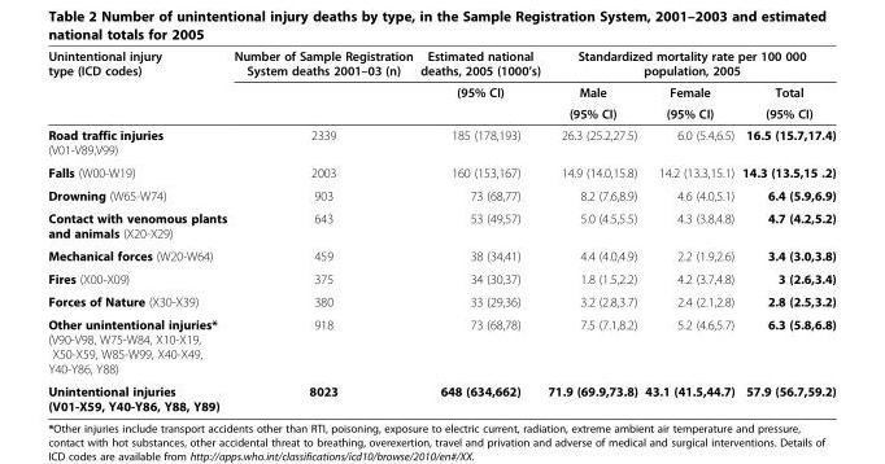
<table><thead><tr><td rowspan="3">Unintentional injury type (ICD codes)</td><td rowspan="3">Number of Sample Registration System deaths 2001–03 (n)</td><td rowspan="3">Estimated national deaths, 2005 (1000’s) (95% CI)</td><td colspan="3">Standardized mortality rate per 100 000 population, 2005</td></tr><tr><td rowspan="2">Male (95% CI)</td><td rowspan="2">Female (95% CI)</td><td rowspan="2">Total (95% CI)</td></tr><tr></tr></thead><tbody><tr><td>Road traffic injuries (V01-V89,V99)</td><td>2339</td><td>185 (178,193)</td><td>26.3 (25.2,27.5)</td><td>6.0 (5.4,6.5)</td><td>16.5 (15.7,17.4)</td></tr><tr><td>Falls (W00-W19)</td><td>2003</td><td>160 (153,167)</td><td>14.9 (14.0,15.8)</td><td>14.2 (13.3,15.1)</td><td>14.3 (13.5,15 .2)</td></tr><tr><td>Drowning (W65-W74)</td><td>903</td><td>73 (68,77)</td><td>8.2 (7.6,8.9)</td><td>4.6 (4.0,5.1)</td><td>6.4 (5.9,6.9)</td></tr><tr><td>Contact with venomous plants and animals (X20-X29)</td><td>643</td><td>53 (49,57)</td><td>5.0 (4.5,5.5)</td><td>4.3 (3.8,4.8)</td><td>4.7 (4.2,5.2)</td></tr><tr><td>Mechanical forces (W20-W64)</td><td>459</td><td>38 (34,41)</td><td>4.4 (4.0,4.9)</td><td>2.2 (1.9,2.6)</td><td>3.4 (3.0,3.8)</td></tr><tr><td>Fires (X00-X09)</td><td>375</td><td>34 (30,37)</td><td>1.8 (1.5,2.2)</td><td>4.2 (3.7,4.8)</td><td>3 (2.6,3.4)</td></tr><tr><td>Forces of Nature (X30-X39)</td><td>380</td><td>33 (29,36)</td><td>3.2 (2.8,3.7)</td><td>2.4 (2.1,2.8)</td><td>2.8 (2.5,3.2)</td></tr><tr><td>Other unintentional injuries* (V90-V98, W75-W84, X10-X19, X50-X59, W85-W99, X40-X49, Y40-Y86, Y88)</td><td>918</td><td>73 (68,78)</td><td>7.5 (7.1,8.2)</td><td>5.2 (4.6,5.7)</td><td>6.3 (5.8,6.8)</td></tr><tr><td>Unintentional injuries (V01-X59, Y40-Y86, Y88, Y89)</td><td>8023</td><td>648 (634,662)</td><td>71.9 (69.9,73.8)</td><td>43.1 (41.5,44.7)</td><td>57.9 (56.7,59.2)</td></tr></tbody></table>